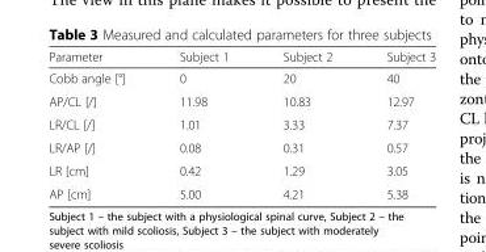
<table><thead><tr><td>Parameter</td><td>Subject 1</td><td>Subject 2</td><td>Subject 3</td></tr></thead><tbody><tr><td>Cobb angle [°]</td><td>0</td><td>20</td><td>40</td></tr><tr><td>AP/CL [/]</td><td>11.98</td><td>10.83</td><td>12.97</td></tr><tr><td>LR/CL [/]</td><td>1.01</td><td>3.33</td><td>7.37</td></tr><tr><td>LR/AP [/]</td><td>0.08</td><td>0.31</td><td>0.57</td></tr><tr><td>LR [cm]</td><td>0.42</td><td>1.29</td><td>3.05</td></tr><tr><td>AP [cm]</td><td>5.00</td><td>4.21</td><td>5.38</td></tr></tbody></table>